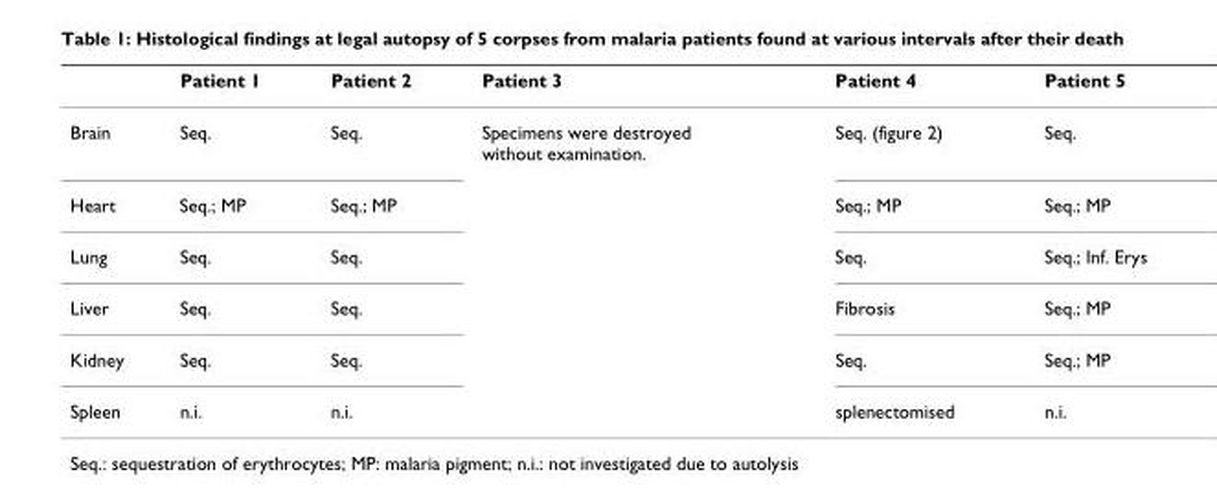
<table><thead><tr><td></td><td>Patient 1</td><td>Patient 2</td><td>Patient 3</td><td>Patient 4</td><td>Patient 5</td></tr></thead><tbody><tr><td>Brain</td><td>Seq.</td><td>Seq.</td><td>Specimens were destroyed without examination.</td><td>Seq. (figure 2)</td><td>Seq.</td></tr><tr><td>Heart</td><td>Seq.; MP</td><td>Seq.; MP</td><td></td><td>Seq.; MP</td><td>Seq.; MP</td></tr><tr><td>Lung</td><td>Seq.</td><td>Seq.</td><td></td><td>Seq.</td><td>Seq.; Inf. Erys</td></tr><tr><td>Liver</td><td>Seq.</td><td>Seq.</td><td></td><td>Fibrosis</td><td>Seq.; MP</td></tr><tr><td>Kidney</td><td>Seq.</td><td>Seq.</td><td></td><td>Seq.</td><td>Seq.; MP</td></tr><tr><td>Spleen</td><td>n.i.</td><td>n.i.</td><td></td><td>splenectomised</td><td>n.i.</td></tr></tbody></table>